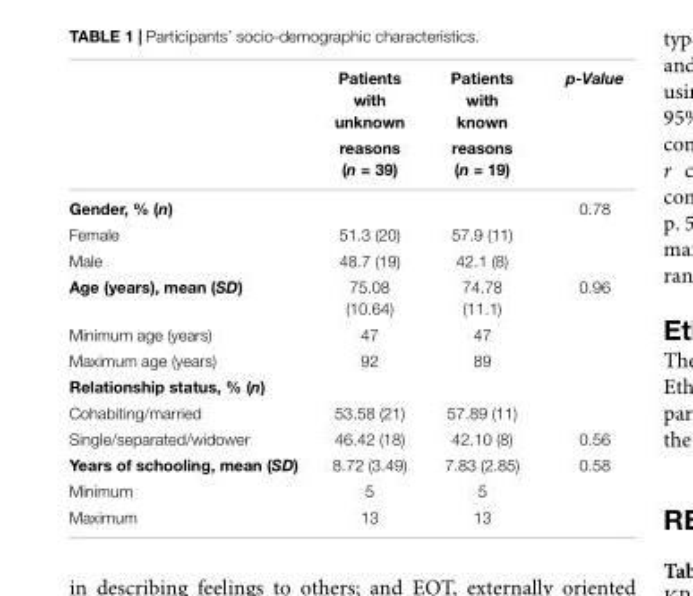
<table><thead><tr><td rowspan="2"></td><td rowspan="2">Patients with unknown reasons (n = 39)</td><td rowspan="2">Patients with known reasons (n = 19)</td><td rowspan="2">p-Value</td></tr><tr></tr></thead><tbody><tr><td>Gender, % (n)</td><td></td><td></td><td>0.78</td></tr><tr><td>Female</td><td>51.3 (20)</td><td>57.9 (11)</td><td></td></tr><tr><td>Male</td><td>48.7 (19)</td><td>42.1 (8)</td><td></td></tr><tr><td>Age (years), mean (SD)</td><td>75.08 (10.64)</td><td>74.78 (11.1)</td><td>0.96</td></tr><tr><td>Minimum age (years)</td><td>47</td><td>47</td><td></td></tr><tr><td>Maximum age (years)</td><td>92</td><td>89</td><td></td></tr><tr><td colspan="4">Relationship status, % (n)</td></tr><tr><td>Cohabiting/married</td><td>53.58 (21)</td><td>57.89 (11)</td><td></td></tr><tr><td>Single/separated/widower</td><td>46.42 (18)</td><td>42.10 (8)</td><td>0.56</td></tr><tr><td>Years of schooling, mean (SD)</td><td>8.72 (3.49)</td><td>7.83 (2.85)</td><td>0.58</td></tr><tr><td>Minimum</td><td>5</td><td>5</td><td></td></tr><tr><td>Maximum</td><td>13</td><td>13</td><td></td></tr></tbody></table>